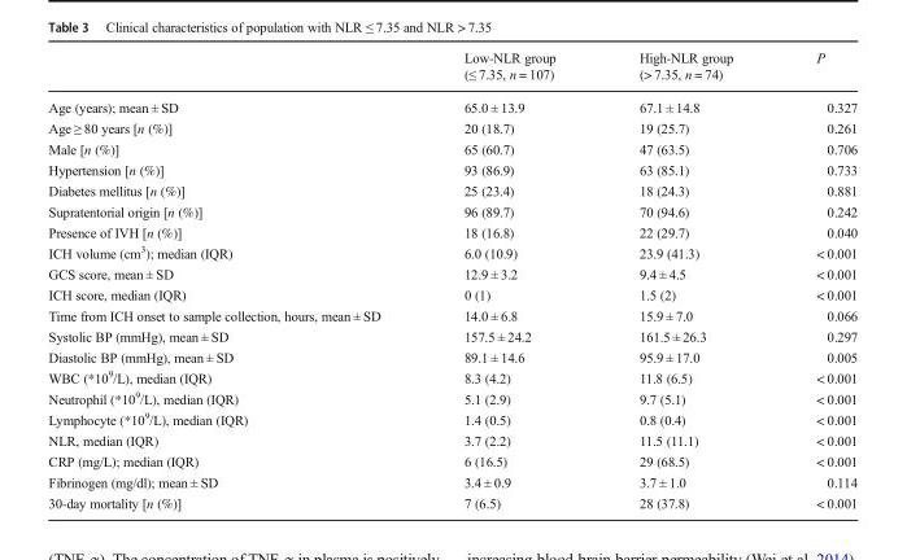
<table><thead><tr><td></td><td>Low-NLR group (≤ 7.35, n = 107)</td><td>High-NLR group (&gt; 7.35, n = 74)</td><td>P</td></tr></thead><tbody><tr><td>Age (years); mean ± SD</td><td>65.0 ± 13.9</td><td>67.1 ± 14.8</td><td>0.327</td></tr><tr><td>Age ≥ 80 years [n (%)]</td><td>20 (18.7)</td><td>19 (25.7)</td><td>0.261</td></tr><tr><td>Male [n (%)]</td><td>65 (60.7)</td><td>47 (63.5)</td><td>0.706</td></tr><tr><td>Hypertension [n (%)]</td><td>93 (86.9)</td><td>63 (85.1)</td><td>0.733</td></tr><tr><td>Diabetes mellitus [n (%)]</td><td>25 (23.4)</td><td>18 (24.3)</td><td>0.881</td></tr><tr><td>Supratentorial origin [n (%)]</td><td>96 (89.7)</td><td>70 (94.6)</td><td>0.242</td></tr><tr><td>Presence of IVH [n (%)]</td><td>18 (16.8)</td><td>22 (29.7)</td><td>0.040</td></tr><tr><td>ICH volume (cm<sup>3</sup>); median (IQR)</td><td>6.0 (10.9)</td><td>23.9 (41.3)</td><td>&lt; 0.001</td></tr><tr><td>GCS score, mean ± SD</td><td>12.9 ± 3.2</td><td>9.4 ± 4.5</td><td>&lt; 0.001</td></tr><tr><td>ICH score, median (IQR)</td><td>0 (1)</td><td>1.5 (2)</td><td>&lt; 0.001</td></tr><tr><td>Time from ICH onset to sample collection, hours, mean ± SD</td><td>14.0 ± 6.8</td><td>15.9 ± 7.0</td><td>0.066</td></tr><tr><td>Systolic BP (mmHg), mean ± SD</td><td>157.5 ± 24.2</td><td>161.5 ± 26.3</td><td>0.297</td></tr><tr><td>Diastolic BP (mmHg), mean ± SD</td><td>89.1 ± 14.6</td><td>95.9 ± 17.0</td><td>0.005</td></tr><tr><td>WBC (*10<sup>9</sup>/L), median (IQR)</td><td>8.3 (4.2)</td><td>11.8 (6.5)</td><td>&lt; 0.001</td></tr><tr><td>Neutrophil (*10<sup>9</sup>/L), median (IQR)</td><td>5.1 (2.9)</td><td>9.7 (5.1)</td><td>&lt; 0.001</td></tr><tr><td>Lymphocyte (*10<sup>9</sup>/L), median (IQR)</td><td>1.4 (0.5)</td><td>0.8 (0.4)</td><td>&lt; 0.001</td></tr><tr><td>NLR, median (IQR)</td><td>3.7 (2.2)</td><td>11.5 (11.1)</td><td>&lt; 0.001</td></tr><tr><td>CRP (mg/L); median (IQR)</td><td>6 (16.5)</td><td>29 (68.5)</td><td>&lt; 0.001</td></tr><tr><td>Fibrinogen (mg/dl); mean ± SD</td><td>3.4 ± 0.9</td><td>3.7 ± 1.0</td><td>0.114</td></tr><tr><td>30-day mortality [n (%)]</td><td>7 (6.5)</td><td>28 (37.8)</td><td>&lt; 0.001</td></tr></tbody></table>